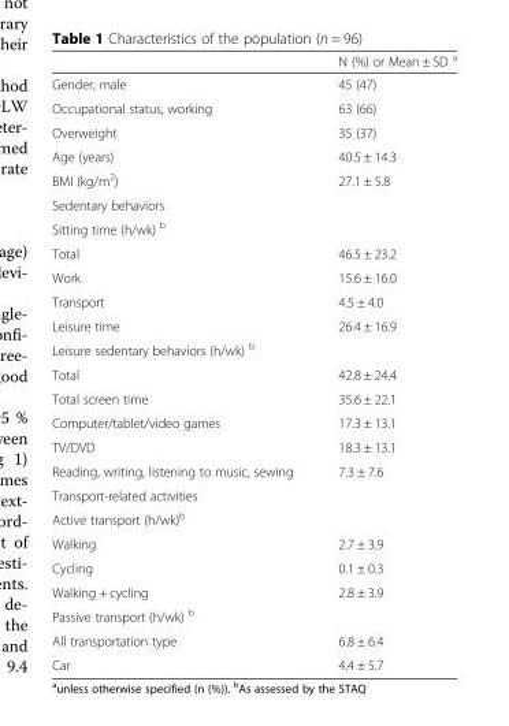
<table><thead><tr><td></td><td>N (%) or Mean ± SD <sup>a</sup></td></tr></thead><tbody><tr><td>Gender, male</td><td>45 (47)</td></tr><tr><td>Occupational status, working</td><td>63 (66)</td></tr><tr><td>Overweight</td><td>35 (37)</td></tr><tr><td>Age (years)</td><td>40.5 ± 14.3</td></tr><tr><td>BMI (kg/m<sup>2</sup>)</td><td>27.1 ± 5.8</td></tr><tr><td colspan="2">Sedentary behaviors</td></tr><tr><td colspan="2">Sitting time (h/wk) <sup>b</sup></td></tr><tr><td>Total</td><td>46.5 ± 23.2</td></tr><tr><td>Work</td><td>15.6 ± 16.0</td></tr><tr><td>Transport</td><td>4.5 ± 4.0</td></tr><tr><td>Leisure time</td><td>26.4 ± 16.9</td></tr><tr><td colspan="2">Leisure sedentary behaviors (h/wk) <sup>b</sup></td></tr><tr><td>Total</td><td>42.8 ± 24.4</td></tr><tr><td>Total screen time</td><td>35.6 ± 22.1</td></tr><tr><td>Computer/tablet/video games</td><td>17.3 ± 13.1</td></tr><tr><td>TV/DVD</td><td>18.3 ± 13.1</td></tr><tr><td>Reading, writing, listening to music, sewing</td><td>7.3 ± 7.6</td></tr><tr><td colspan="2">Transport-related activities</td></tr><tr><td colspan="2">Active transport (h/wk)<sup>b</sup></td></tr><tr><td>Walking</td><td>2.7 ± 3.9</td></tr><tr><td>Cycling</td><td>0.1 ± 0.3</td></tr><tr><td>Walking + cycling</td><td>2.8 ± 3.9</td></tr><tr><td colspan="2">Passive transport (h/wk) <sup>b</sup></td></tr><tr><td>All transportation type</td><td>6.8 ± 6.4</td></tr><tr><td>Car</td><td>4.4 ± 5.7</td></tr></tbody></table>